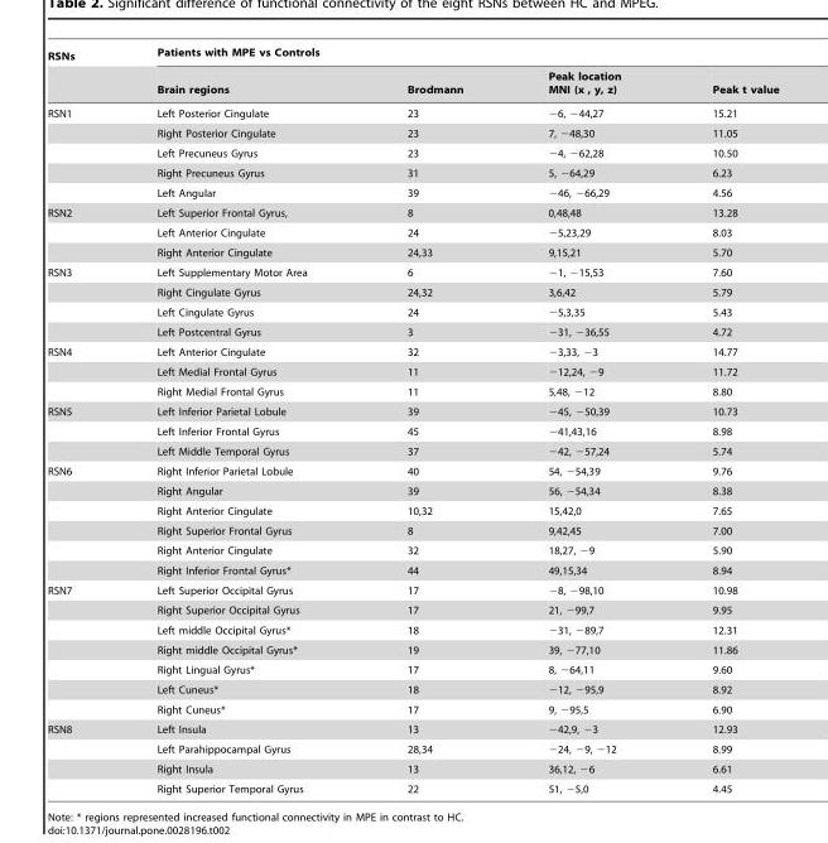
<table><thead><tr><td rowspan="2">RSNs</td><td colspan="4">Patients with MPE vs Controls</td></tr><tr><td>Brain regions</td><td>Brodmann</td><td>Peak location MNI (x , y, z)</td><td>Peak t value</td></tr></thead><tbody><tr><td rowspan="5">RSN1</td><td>Left Posterior Cingulate</td><td>23</td><td>−6, −44,27</td><td>15.21</td></tr><tr><td>Right Posterior Cingulate</td><td>23</td><td>7, −48,30</td><td>11.05</td></tr><tr><td>Left Precuneus Gyrus</td><td>23</td><td>−4, −62,28</td><td>10.50</td></tr><tr><td>Right Precuneus Gyrus</td><td>31</td><td>5, −64,29</td><td>6.23</td></tr><tr><td>Left Angular</td><td>39</td><td>−46, −66,29</td><td>4.56</td></tr><tr><td rowspan="3">RSN2</td><td>Left Superior Frontal Gyrus,</td><td>8</td><td>0,48,48</td><td>13.28</td></tr><tr><td>Left Anterior Cingulate</td><td>24</td><td>−5,23,29</td><td>8.03</td></tr><tr><td>Right Anterior Cingulate</td><td>24,33</td><td>9,15,21</td><td>5.70</td></tr><tr><td rowspan="4">RSN3</td><td>Left Supplementary Motor Area</td><td>6</td><td>−1, −15,53</td><td>7.60</td></tr><tr><td>Right Cingulate Gyrus</td><td>24,32</td><td>3,6,42</td><td>5.79</td></tr><tr><td>Left Cingulate Gyrus</td><td>24</td><td>−5,3,35</td><td>5.43</td></tr><tr><td>Left Postcentral Gyrus</td><td>3</td><td>−31, −36,55</td><td>4.72</td></tr><tr><td rowspan="3">RSN4</td><td>Left Anterior Cingulate</td><td>32</td><td>−3,33, −3</td><td>14.77</td></tr><tr><td>Left Medial Frontal Gyrus</td><td>11</td><td>−12,24, −9</td><td>11.72</td></tr><tr><td>Right Medial Frontal Gyrus</td><td>11</td><td>5,48, −12</td><td>8.80</td></tr><tr><td rowspan="3">RSN5</td><td>Left Inferior Parietal Lobule</td><td>39</td><td>−45, −50,39</td><td>10.73</td></tr><tr><td>Left Inferior Frontal Gyrus</td><td>45</td><td>−41,43,16</td><td>8.98</td></tr><tr><td>Left Middle Temporal Gyrus</td><td>37</td><td>−42, −57,24</td><td>5.74</td></tr><tr><td rowspan="6">RSN6</td><td>Right Inferior Parietal Lobule</td><td>40</td><td>54, −54,39</td><td>9.76</td></tr><tr><td>Right Angular</td><td>39</td><td>56, −54,34</td><td>8.38</td></tr><tr><td>Right Anterior Cingulate</td><td>10,32</td><td>15,42,0</td><td>7.65</td></tr><tr><td>Right Superior Frontal Gyrus</td><td>8</td><td>9,42,45</td><td>7.00</td></tr><tr><td>Right Anterior Cingulate</td><td>32</td><td>18,27, −9</td><td>5.90</td></tr><tr><td>Right Inferior Frontal Gyrus*</td><td>44</td><td>49,15,34</td><td>8.94</td></tr><tr><td rowspan="7">RSN7</td><td>Left Superior Occipital Gyrus</td><td>17</td><td>−8, −98,10</td><td>10.98</td></tr><tr><td>Right Superior Occipital Gyrus</td><td>17</td><td>21, −99,7</td><td>9.95</td></tr><tr><td>Left middle Occipital Gyrus*</td><td>18</td><td>−31, −89,7</td><td>12.31</td></tr><tr><td>Right middle Occipital Gyrus*</td><td>19</td><td>39, −77,10</td><td>11.86</td></tr><tr><td>Right Lingual Gyrus*</td><td>17</td><td>8, −64,11</td><td>9.60</td></tr><tr><td>Left Cuneus*</td><td>18</td><td>−12, −95,9</td><td>8.92</td></tr><tr><td>Right Cuneus*</td><td>17</td><td>9, −95,5</td><td>6.90</td></tr><tr><td rowspan="4">RSN8</td><td>Left Insula</td><td>13</td><td>−42,9, −3</td><td>12.93</td></tr><tr><td>Left Parahippocampal Gyrus</td><td>28,34</td><td>−24, −9, −12</td><td>8.99</td></tr><tr><td>Right Insula</td><td>13</td><td>36,12, −6</td><td>6.61</td></tr><tr><td>Right Superior Temporal Gyrus</td><td>22</td><td>51, −5,0</td><td>4.45</td></tr></tbody></table>